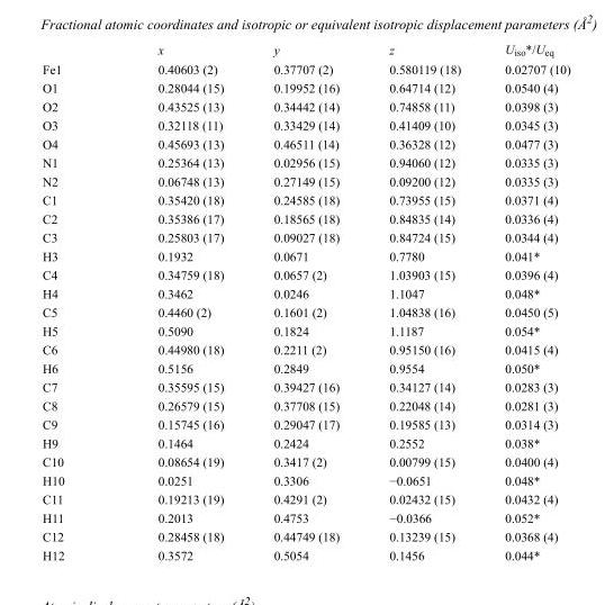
<table><thead><tr><td></td><td>x</td><td>y</td><td>z</td><td>U<sub>iso</sub>*/U<sub>eq</sub></td></tr></thead><tbody><tr><td>Fe1</td><td>0.40603 (2)</td><td>0.37707 (2)</td><td>0.580119 (18)</td><td>0.02707 (10)</td></tr><tr><td>O1</td><td>0.28044 (15)</td><td>0.19952 (16)</td><td>0.64714 (12)</td><td>0.0540 (4)</td></tr><tr><td>O2</td><td>0.43525 (13)</td><td>0.34442 (14)</td><td>0.74858 (11)</td><td>0.0398 (3)</td></tr><tr><td>O3</td><td>0.32118 (11)</td><td>0.33429 (14)</td><td>0.41409 (10)</td><td>0.0345 (3)</td></tr><tr><td>O4</td><td>0.45693 (13)</td><td>0.46511 (14)</td><td>0.36328 (12)</td><td>0.0477 (3)</td></tr><tr><td>N1</td><td>0.25364 (13)</td><td>0.02956 (15)</td><td>0.94060 (12)</td><td>0.0335 (3)</td></tr><tr><td>N2</td><td>0.06748 (13)</td><td>0.27149 (15)</td><td>0.09200 (12)</td><td>0.0335 (3)</td></tr><tr><td>C1</td><td>0.35420 (18)</td><td>0.24585 (18)</td><td>0.73955 (15)</td><td>0.0371 (4)</td></tr><tr><td>C2</td><td>0.35386 (17)</td><td>0.18565 (18)</td><td>0.84835 (14)</td><td>0.0336 (4)</td></tr><tr><td>C3</td><td>0.25803 (17)</td><td>0.09027 (18)</td><td>0.84724 (15)</td><td>0.0344 (4)</td></tr><tr><td>H3</td><td>0.1932</td><td>0.0671</td><td>0.7780</td><td>0.041*</td></tr><tr><td>C4</td><td>0.34759 (18)</td><td>0.0657 (2)</td><td>1.03903 (15)</td><td>0.0396 (4)</td></tr><tr><td>H4</td><td>0.3462</td><td>0.0246</td><td>1.1047</td><td>0.048*</td></tr><tr><td>C5</td><td>0.4460 (2)</td><td>0.1601 (2)</td><td>1.04838 (16)</td><td>0.0450 (5)</td></tr><tr><td>H5</td><td>0.5090</td><td>0.1824</td><td>1.1187</td><td>0.054*</td></tr><tr><td>C6</td><td>0.44980 (18)</td><td>0.2211 (2)</td><td>0.95150 (16)</td><td>0.0415 (4)</td></tr><tr><td>H6</td><td>0.5156</td><td>0.2849</td><td>0.9554</td><td>0.050*</td></tr><tr><td>C7</td><td>0.35595 (15)</td><td>0.39427 (16)</td><td>0.34127 (14)</td><td>0.0283 (3)</td></tr><tr><td>C8</td><td>0.26579 (15)</td><td>0.37708 (15)</td><td>0.22048 (14)</td><td>0.0281 (3)</td></tr><tr><td>C9</td><td>0.15745 (16)</td><td>0.29047 (17)</td><td>0.19585 (13)</td><td>0.0314 (3)</td></tr><tr><td>H9</td><td>0.1464</td><td>0.2424</td><td>0.2552</td><td>0.038*</td></tr><tr><td>C10</td><td>0.08654 (19)</td><td>0.3417 (2)</td><td>0.00799 (15)</td><td>0.0400 (4)</td></tr><tr><td>H10</td><td>0.0251</td><td>0.3306</td><td>−0.0651</td><td>0.048*</td></tr><tr><td>C11</td><td>0.19213 (19)</td><td>0.4291 (2)</td><td>0.02432 (15)</td><td>0.0432 (4)</td></tr><tr><td>H11</td><td>0.2013</td><td>0.4753</td><td>−0.0366</td><td>0.052*</td></tr><tr><td>C12</td><td>0.28458 (18)</td><td>0.44749 (18)</td><td>0.13239 (15)</td><td>0.0368 (4)</td></tr><tr><td>H12</td><td>0.3572</td><td>0.5054</td><td>0.1456</td><td>0.044*</td></tr></tbody></table>